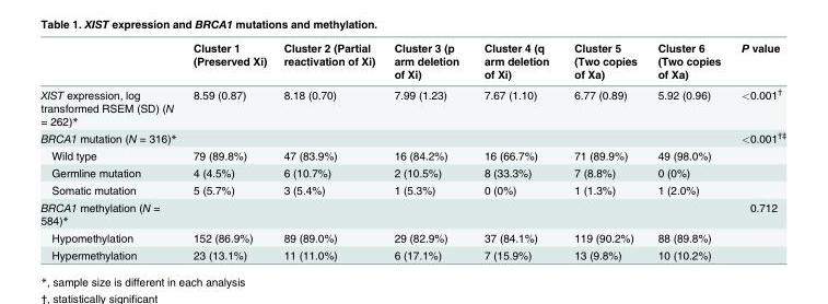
<table><thead><tr><td></td><td>Cluster 1 (Preserved Xi)</td><td>Cluster 2 (Partial reactivation of Xi)</td><td>Cluster 3 (p arm deletion of Xi)</td><td>Cluster 4 (q arm deletion of Xi)</td><td>Cluster 5 (Two copies of Xa)</td><td>Cluster 6 (Two copies of Xa)</td><td>P value</td></tr></thead><tbody><tr><td>XIST expression, log transformed RSEM (SD) (N = 262)*</td><td>8.59 (0.87)</td><td>8.18 (0.70)</td><td>7.99 (1.23)</td><td>7.67 (1.10)</td><td>6.77 (0.89)</td><td>5.92 (0.96)</td><td>&lt;0.001<sup>†</sup></td></tr><tr><td>BRCA1 mutation (N = 316)*</td><td></td><td></td><td></td><td></td><td></td><td></td><td>&lt;0.001<sup>†‡</sup></td></tr><tr><td>Wild type</td><td>79 (89.8%)</td><td>47 (83.9%)</td><td>16 (84.2%)</td><td>16 (66.7%)</td><td>71 (89.9%)</td><td>49 (98.0%)</td><td></td></tr><tr><td>Germline mutation</td><td>4 (4.5%)</td><td>6 (10.7%)</td><td>2 (10.5%)</td><td>8 (33.3%)</td><td>7 (8.8%)</td><td>0 (0%)</td><td></td></tr><tr><td>Somatic mutation</td><td>5 (5.7%)</td><td>3 (5.4%)</td><td>1 (5.3%)</td><td>0 (0%)</td><td>1 (1.3%)</td><td>1 (2.0%)</td><td></td></tr><tr><td>BRCA1 methylation (N = 584)*</td><td></td><td></td><td></td><td></td><td></td><td></td><td>0.712</td></tr><tr><td>Hypomethylation</td><td>152 (86.9%)</td><td>89 (89.0%)</td><td>29 (82.9%)</td><td>37 (84.1%)</td><td>119 (90.2%)</td><td>88 (89.8%)</td><td></td></tr><tr><td>Hypermethylation</td><td>23 (13.1%)</td><td>11 (11.0%)</td><td>6 (17.1%)</td><td>7 (15.9%)</td><td>13 (9.8%)</td><td>10 (10.2%)</td><td></td></tr></tbody></table>